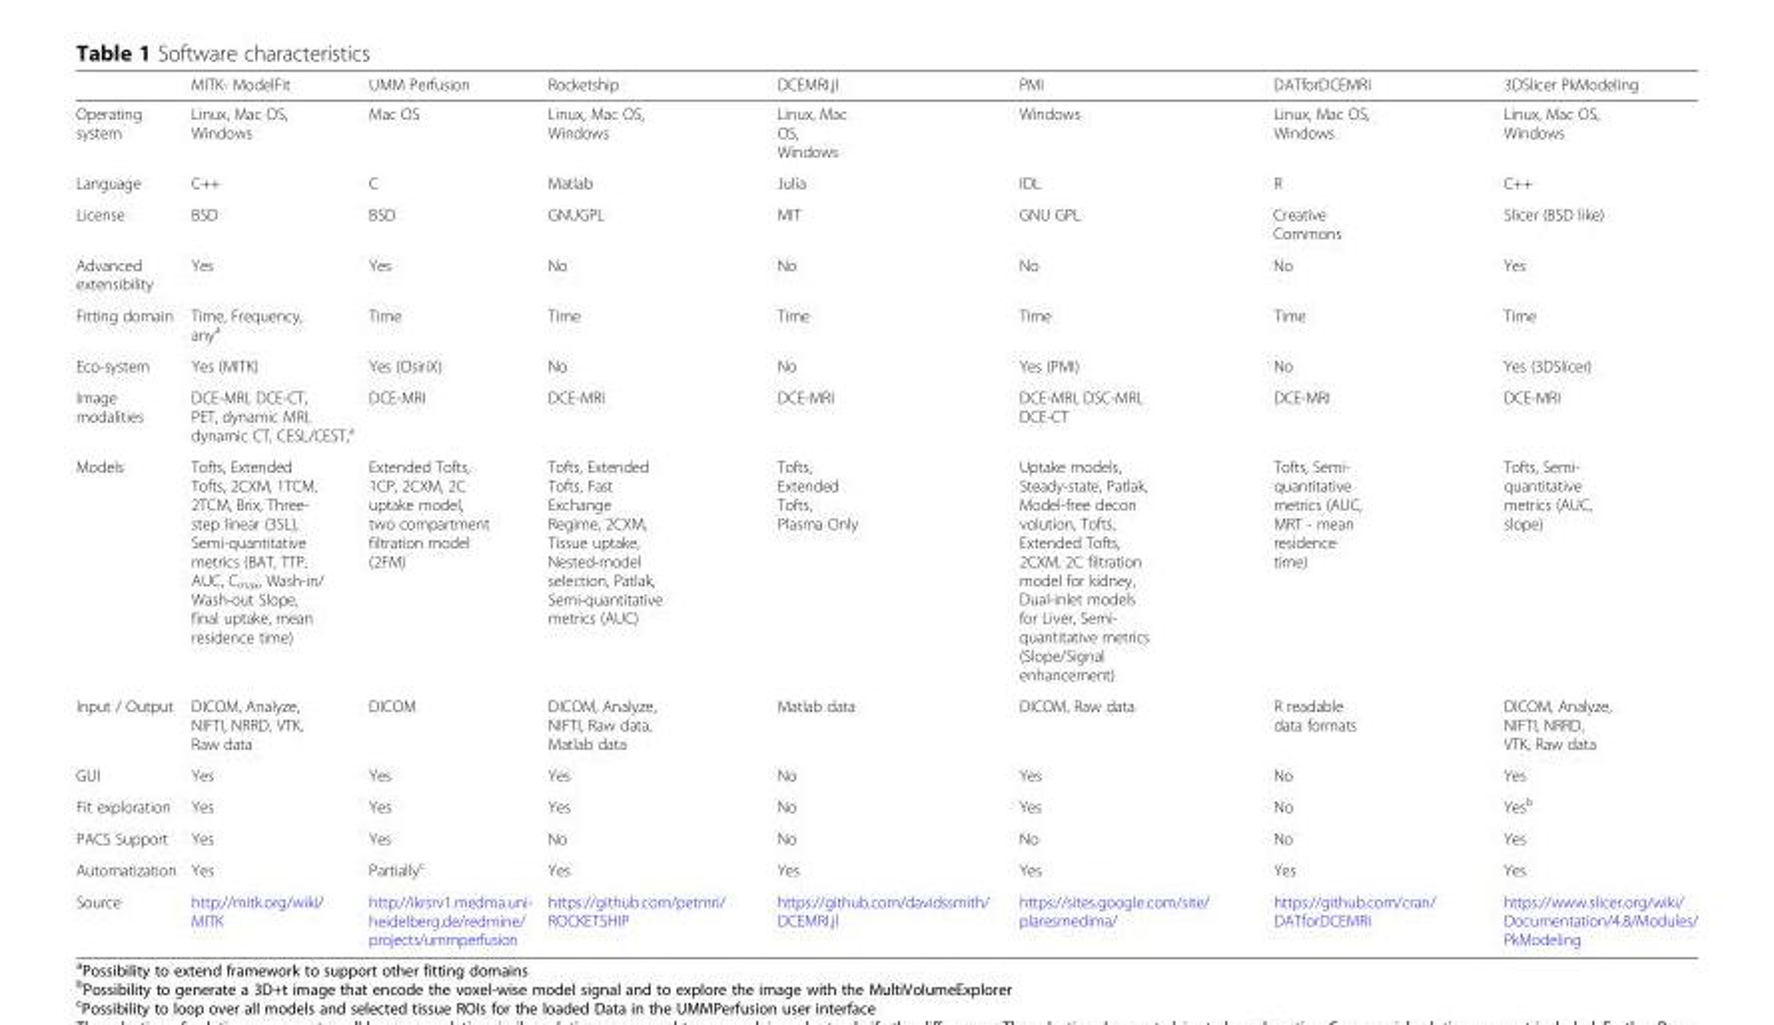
<table><thead><tr><td></td><td>MITK- ModelFit</td><td>UMM Perfusion</td><td>Rocketship</td><td>DCEMRI.jl</td><td>PMI</td><td>DATforDCEMRI</td><td>3DSlicer PkModeling</td></tr></thead><tbody><tr><td>Operating system</td><td>Linux, Mac OS, Windows</td><td>Mac OS</td><td>Linux, Mac OS, Windows</td><td>Linux, Mac OS, Windows</td><td>Windows</td><td>Linux, Mac OS, Windows</td><td>Linux, Mac OS, Windows</td></tr><tr><td>Language</td><td>C++</td><td>C</td><td>Matlab</td><td>Julia</td><td>IDL</td><td>R</td><td>C++</td></tr><tr><td>License</td><td>BSD</td><td>BSD</td><td>GNUGPL</td><td>MIT</td><td>GNU GPL</td><td>Creative Commons</td><td>Slicer (BSD like)</td></tr><tr><td>Advanced extensibility</td><td>Yes</td><td>Yes</td><td>No</td><td>No</td><td>No</td><td>No</td><td>Yes</td></tr><tr><td>Fitting domain</td><td>Time, Frequency, any<sup>a</sup></td><td>Time</td><td>Time</td><td>Time</td><td>Time</td><td>Time</td><td>Time</td></tr><tr><td>Eco-system</td><td>Yes (MITK)</td><td>Yes (OsiriX)</td><td>No</td><td>No</td><td>Yes (PMI)</td><td>No</td><td>Yes (3DSlicer)</td></tr><tr><td>Image modalities</td><td>DCE-MRI, DCE-CT, PET, dynamic MRI, dynamic CT, CESL/CEST,<sup>a</sup></td><td>DCE-MRI</td><td>DCE-MRI</td><td>DCE-MRI</td><td>DCE-MRI, DSC-MRI, DCE-CT</td><td>DCE-MRI</td><td>DCE-MRI</td></tr><tr><td>Models</td><td>Tofts, Extended Tofts, 2CXM, 1TCM, 2TCM, Brix, Three- step linear (3SL), Semi-quantitative metrics (BAT, TTP, AUC, C<sub>max</sub>, Wash-in/ Wash-out Slope, final uptake, mean residence time)</td><td>Extended Tofts, 1CP, 2CXM, 2C uptake model, two compartment filtration model (2FM)</td><td>Tofts, Extended Tofts, Fast Exchange Regime, 2CXM, Tissue uptake, Nested-model selection, Patlak, Semi-quantitative metrics (AUC)</td><td>Tofts, Extended Tofts, Plasma Only</td><td>Uptake models, Steady-state, Patlak, Model-free decon volution, Tofts, Extended Tofts, 2CXM, 2C filtration model for kidney, Dual-inlet models for Liver, Semi- quantitative metrics (Slope/Signal enhancement)</td><td>Tofts, Semi- quantitative metrics (AUC, MRT - mean residence time)</td><td>Tofts, Semi- quantitative metrics (AUC, slope)</td></tr><tr><td>Input / Output</td><td>DICOM, Analyze, NIFTI, NRRD, VTK, Raw data</td><td>DICOM</td><td>DICOM, Analyze, NIFTI, Raw data, Matlab data</td><td>Matlab data</td><td>DICOM, Raw data</td><td>R readable data formats</td><td>DICOM, Analyze, NIFTI, NRRD, VTK, Raw data</td></tr><tr><td>GUI</td><td>Yes</td><td>Yes</td><td>Yes</td><td>No</td><td>Yes</td><td>No</td><td>Yes</td></tr><tr><td>Fit exploration</td><td>Yes</td><td>Yes</td><td>Yes</td><td>No</td><td>Yes</td><td>No</td><td>Yes<sup>b</sup></td></tr><tr><td>PACS Support</td><td>Yes</td><td>Yes</td><td>No</td><td>No</td><td>No</td><td>No</td><td>Yes</td></tr><tr><td>Automatization</td><td>Yes</td><td>Partially<sup>c</sup></td><td>Yes</td><td>Yes</td><td>Yes</td><td>Yes</td><td>Yes</td></tr><tr><td>Source</td><td>http://mitk.org/wiki/ MITK</td><td>http://ikrsrv1.medma.uni- heidelberg.de/redmine/ projects/ummperfusion</td><td>https://github.com/petmri/ ROCKETSHIP</td><td>https://github.com/davidssmith/ DCEMRI.jl</td><td>https://sites.google.com/site/ plaresmedima/</td><td>https://github.com/cran/ DATforDCEMRI</td><td>https://www.slicer.org/wiki/ Documentation/4.8/Modules/ PkModeling</td></tr></tbody></table>